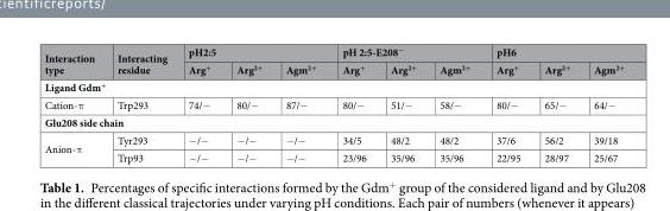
<table><thead><tr><td rowspan="2">Interaction type</td><td rowspan="2">Interacting residue</td><td colspan="3">pH2:5</td><td colspan="3">pH 2:5-E208<sup>−</sup></td><td colspan="3">pH6</td></tr><tr><td>Arg<sup>+</sup></td><td>Arg<sup>2+</sup></td><td>Agm<sup>2+</sup></td><td>Arg<sup>+</sup></td><td>Arg<sup>2+</sup></td><td>Agm<sup>2+</sup></td><td>Arg<sup>+</sup></td><td>Arg<sup>2+</sup></td><td>Agm<sup>2+</sup></td></tr></thead><tbody><tr><td colspan="11">Ligand Gdm<sup>+</sup></td></tr><tr><td>Cation-π</td><td>Trp293</td><td>74/−</td><td>80/−</td><td>87/−</td><td>80/−</td><td>51/−</td><td>58/−</td><td>80/−</td><td>65/−</td><td>64/−</td></tr><tr><td colspan="11">Glu208 side chain</td></tr><tr><td rowspan="2">Anion-π</td><td>Tyr293</td><td>−/−</td><td>−/−</td><td>−/−</td><td>34/5</td><td>48/2</td><td>48/2</td><td>37/6</td><td>56/2</td><td>39/18</td></tr><tr><td>Trp93</td><td>−/−</td><td>−/−</td><td>−/−</td><td>23/96</td><td>35/96</td><td>35/96</td><td>22/95</td><td>28/97</td><td>25/67</td></tr></tbody></table>